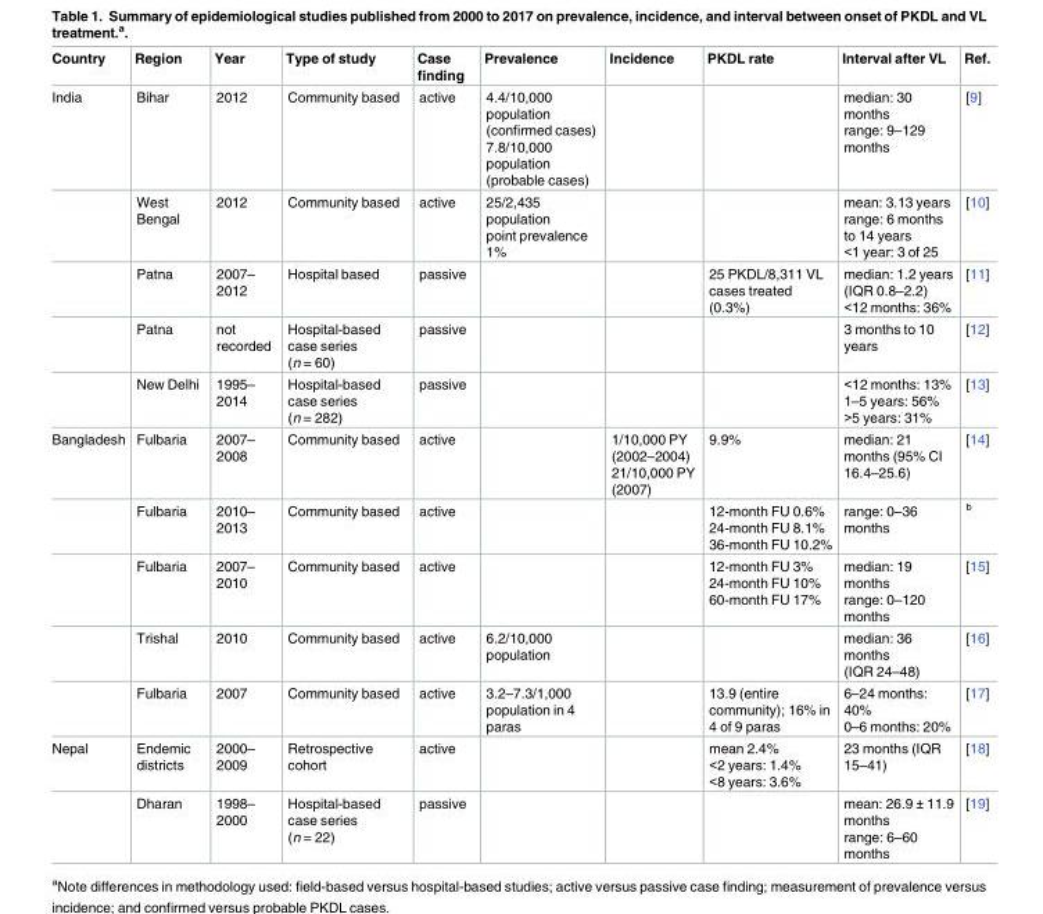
<table><thead><tr><td>Country</td><td>Region</td><td>Year</td><td>Type of study</td><td>Case finding</td><td>Prevalence</td><td>Incidence</td><td>PKDL rate</td><td>Interval after VL</td><td>Ref.</td></tr></thead><tbody><tr><td rowspan="5">India</td><td>Bihar</td><td>2012</td><td>Community based</td><td>active</td><td>4.4/10,000 population (confirmed cases) 7.8/10,000 population (probable cases)</td><td></td><td></td><td>median: 30 months range: 9–129 months</td><td>[9]</td></tr><tr><td>West Bengal</td><td>2012</td><td>Community based</td><td>active</td><td>25/2,435 population point prevalence 1%</td><td></td><td></td><td>mean: 3.13 years range: 6 months to 14 years &lt;1 year: 3 of 25</td><td>[10]</td></tr><tr><td>Patna</td><td>2007– 2012</td><td>Hospital based</td><td>passive</td><td></td><td></td><td>25 PKDL/8,311 VL cases treated (0.3%)</td><td>median: 1.2 years (IQR 0.8–2.2) &lt;12 months: 36%</td><td>[11]</td></tr><tr><td>Patna</td><td>not recorded</td><td>Hospital-based case series (n = 60)</td><td>passive</td><td></td><td></td><td></td><td>3 months to 10 years</td><td>[12]</td></tr><tr><td>New Delhi</td><td>1995– 2014</td><td>Hospital-based case series (n = 282)</td><td>passive</td><td></td><td></td><td></td><td>&lt;12 months: 13% 1–5 years: 56% &gt;5 years: 31%</td><td>[13]</td></tr><tr><td rowspan="5">Bangladesh</td><td>Fulbaria</td><td>2007– 2008</td><td>Community based</td><td>active</td><td></td><td>1/10,000 PY (2002–2004) 21/10,000 PY (2007)</td><td>9.9%</td><td>median: 21 months (95% CI 16.4–25.6)</td><td>[14]</td></tr><tr><td>Fulbaria</td><td>2010– 2013</td><td>Community based</td><td>active</td><td></td><td></td><td>12-month FU 0.6% 24-month FU 8.1% 36-month FU 10.2%</td><td>range: 0–36 months</td><td><sup>b</sup></td></tr><tr><td>Fulbaria</td><td>2007– 2010</td><td>Community based</td><td>active</td><td></td><td></td><td>12-month FU 3% 24-month FU 10% 60-month FU 17%</td><td>median: 19 months range: 0–120 months</td><td>[15]</td></tr><tr><td>Trishal</td><td>2010</td><td>Community based</td><td>active</td><td>6.2/10,000 population</td><td></td><td></td><td>median: 36 months (IQR 24–48)</td><td>[16]</td></tr><tr><td>Fulbaria</td><td>2007</td><td>Community based</td><td>active</td><td>3.2–7.3/1,000 population in 4 paras</td><td></td><td>13.9 (entire community); 16% in 4 of 9 paras</td><td>6–24 months: 40% 0–6 months: 20%</td><td>[17]</td></tr><tr><td rowspan="2">Nepal</td><td>Endemic districts</td><td>2000– 2009</td><td>Retrospective cohort</td><td>active</td><td></td><td></td><td>mean 2.4% &lt;2 years: 1.4% &lt;8 years: 3.6%</td><td>23 months (IQR 15–41)</td><td>[18]</td></tr><tr><td>Dharan</td><td>1998– 2000</td><td>Hospital-based case series (n = 22)</td><td>passive</td><td></td><td></td><td></td><td>mean: 26.9 ± 11.9 months range: 6–60 months</td><td>[19]</td></tr></tbody></table>